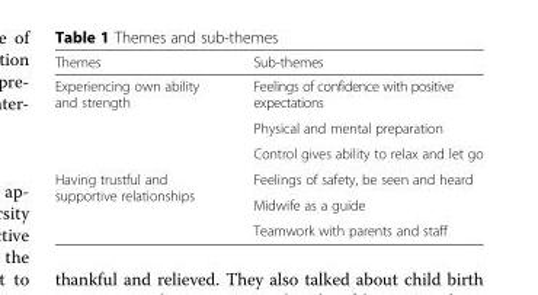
<table><thead><tr><td>Themes</td><td>Sub-themes</td></tr></thead><tbody><tr><td rowspan="3">Experiencing own ability and strength</td><td>Feelings of confidence with positive expectations</td></tr><tr><td>Physical and mental preparation</td></tr><tr><td>Control gives ability to relax and let go</td></tr><tr><td rowspan="3">Having trustful and supportive relationships</td><td>Feelings of safety, be seen and heard</td></tr><tr><td>Midwife as a guide</td></tr><tr><td>Teamwork with parents and staff</td></tr></tbody></table>